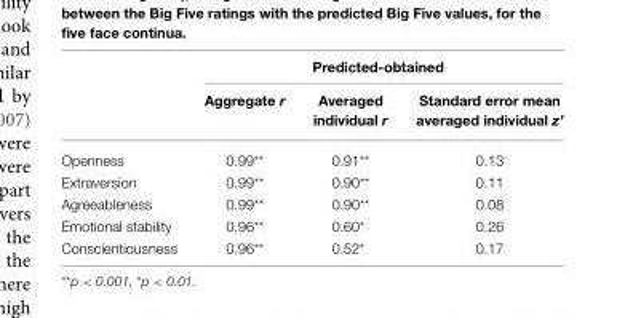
<table><thead><tr><td rowspan="2"></td><td colspan="3">Predicted-obtained</td></tr><tr><td>Aggregate r</td><td>Averaged individual r</td><td>Standard error mean averaged individual z’</td></tr></thead><tbody><tr><td>Openness</td><td>0.99**</td><td>0.91**</td><td>0.13</td></tr><tr><td>Extraversion</td><td>0.99**</td><td>0.90**</td><td>0.11</td></tr><tr><td>Agreeableness</td><td>0.99**</td><td>0.90**</td><td>0.08</td></tr><tr><td>Emotional stability</td><td>0.96**</td><td>0.60*</td><td>0.26</td></tr><tr><td>Conscientiousness</td><td>0.96**</td><td>0.52*</td><td>0.17</td></tr></tbody></table>